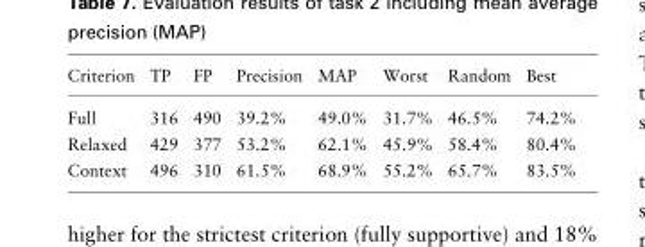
<table><thead><tr><td>Criterion</td><td>TP</td><td>FP</td><td>Precision</td><td>MAP</td><td>Worst</td><td>Random</td><td>Best</td></tr></thead><tbody><tr><td>Full</td><td>316</td><td>490</td><td>39.2%</td><td>49.0%</td><td>31.7%</td><td>46.5%</td><td>74.2%</td></tr><tr><td>Relaxed</td><td>429</td><td>377</td><td>53.2%</td><td>62.1%</td><td>45.9%</td><td>58.4%</td><td>80.4%</td></tr><tr><td>Context</td><td>496</td><td>310</td><td>61.5%</td><td>68.9%</td><td>55.2%</td><td>65.7%</td><td>83.5%</td></tr></tbody></table>